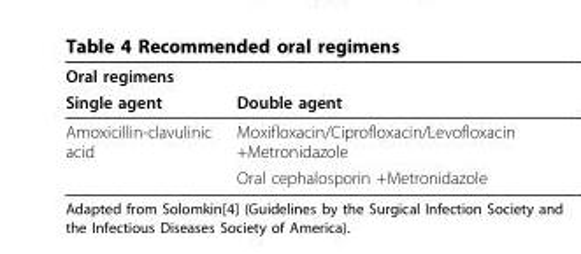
<table><thead><tr><td rowspan="2">Oral regimens Single agent</td><td rowspan="2">Double agent</td></tr><tr></tr></thead><tbody><tr><td rowspan="2">Amoxicillin-clavulinic acid</td><td>Moxifloxacin/Ciprofloxacin/Levofloxacin +Metronidazole</td></tr><tr><td>Oral cephalosporin +Metronidazole</td></tr></tbody></table>